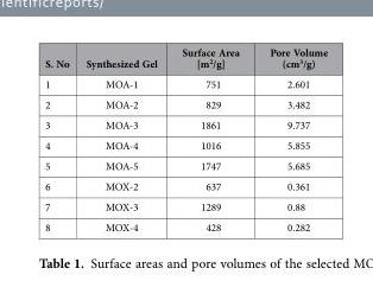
<table><thead><tr><td>S. No</td><td>Synthesized Gel</td><td>Surface Area [m<sup>2</sup>/g]</td><td>Pore Volume (cm<sup>3</sup>/g)</td></tr></thead><tbody><tr><td>1</td><td>MOA-1</td><td>751</td><td>2.601</td></tr><tr><td>2</td><td>MOA-2</td><td>829</td><td>3.482</td></tr><tr><td>3</td><td>MOA-3</td><td>1861</td><td>9.737</td></tr><tr><td>4</td><td>MOA-4</td><td>1016</td><td>5.855</td></tr><tr><td>5</td><td>MOA-5</td><td>1747</td><td>5.685</td></tr><tr><td>6</td><td>MOX-2</td><td>637</td><td>0.361</td></tr><tr><td>7</td><td>MOX-3</td><td>1289</td><td>0.88</td></tr><tr><td>8</td><td>MOX-4</td><td>428</td><td>0.282</td></tr></tbody></table>